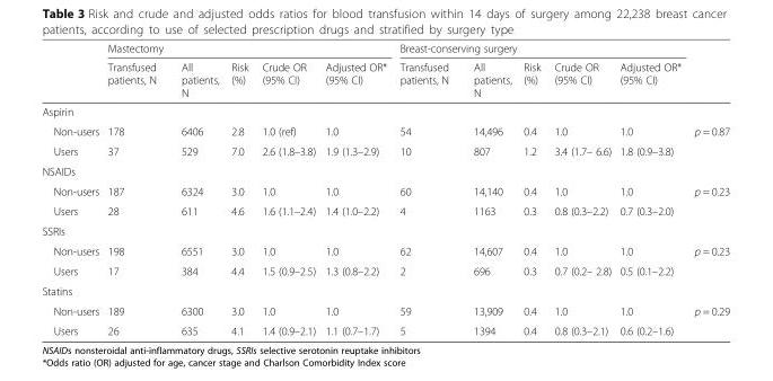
<table><thead><tr><td rowspan="2"></td><td colspan="5">Mastectomy</td><td colspan="5">Breast-conserving surgery</td><td rowspan="2"></td></tr><tr><td>Transfused patients, N</td><td>All patients, N</td><td>Risk (%)</td><td>Crude OR (95% CI)</td><td>Adjusted OR* (95% CI)</td><td>Transfused patients, N</td><td>All patients, N</td><td>Risk (%)</td><td>Crude OR (95% CI)</td><td>Adjusted OR* (95% CI)</td></tr></thead><tbody><tr><td colspan="12">Aspirin</td></tr><tr><td>Non-users</td><td>178</td><td>6406</td><td>2.8</td><td>1.0 (ref)</td><td>1.0</td><td>54</td><td>14,496</td><td>0.4</td><td>1.0</td><td>1.0</td><td rowspan="2">p = 0.87</td></tr><tr><td>Users</td><td>37</td><td>529</td><td>7.0</td><td>2.6 (1.8–3.8)</td><td>1.9 (1.3–2.9)</td><td>10</td><td>807</td><td>1.2</td><td>3.4 (1.7– 6.6)</td><td>1.8 (0.9–3.8)</td></tr><tr><td colspan="12">NSAIDs</td></tr><tr><td>Non-users</td><td>187</td><td>6324</td><td>3.0</td><td>1.0</td><td>1.0</td><td>60</td><td>14,140</td><td>0.4</td><td>1.0</td><td>1.0</td><td rowspan="2">p = 0.23</td></tr><tr><td>Users</td><td>28</td><td>611</td><td>4.6</td><td>1.6 (1.1–2.4)</td><td>1.4 (1.0–2.2)</td><td>4</td><td>1163</td><td>0.3</td><td>0.8 (0.3–2.2)</td><td>0.7 (0.3–2.0)</td></tr><tr><td colspan="12">SSRIs</td></tr><tr><td>Non-users</td><td>198</td><td>6551</td><td>3.0</td><td>1.0</td><td>1.0</td><td>62</td><td>14,607</td><td>0.4</td><td>1.0</td><td>1.0</td><td rowspan="2">p = 0.23</td></tr><tr><td>Users</td><td>17</td><td>384</td><td>4.4</td><td>1.5 (0.9–2.5)</td><td>1.3 (0.8–2.2)</td><td>2</td><td>696</td><td>0.3</td><td>0.7 (0.2– 2.8)</td><td>0.5 (0.1–2.2)</td></tr><tr><td colspan="12">Statins</td></tr><tr><td>Non-users</td><td>189</td><td>6300</td><td>3.0</td><td>1.0</td><td>1.0</td><td>59</td><td>13,909</td><td>0.4</td><td>1.0</td><td>1.0</td><td rowspan="2">p = 0.29</td></tr><tr><td>Users</td><td>26</td><td>635</td><td>4.1</td><td>1.4 (0.9–2.1)</td><td>1.1 (0.7–1.7)</td><td>5</td><td>1394</td><td>0.4</td><td>0.8 (0.3–2.1)</td><td>0.6 (0.2–1.6)</td></tr></tbody></table>